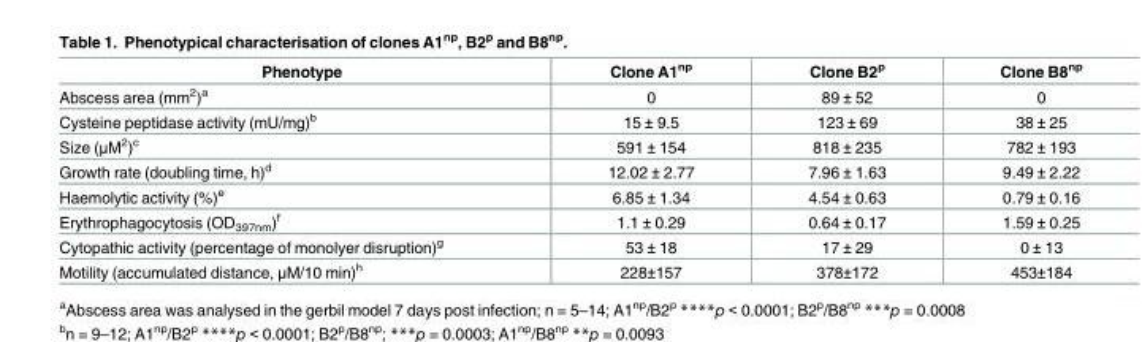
<table><thead><tr><td>Phenotype</td><td>Clone A1<sup>np</sup></td><td>Clone B2<sup>p</sup></td><td>Clone B8<sup>np</sup></td></tr></thead><tbody><tr><td>Abscess area (mm<sup>2</sup>)<sup>a</sup></td><td>0</td><td>89 ± 52</td><td>0</td></tr><tr><td>Cysteine peptidase activity (mU/mg)<sup>b</sup></td><td>15 ± 9.5</td><td>123 ± 69</td><td>38 ± 25</td></tr><tr><td>Size (μM<sup>2</sup>)<sup>c</sup></td><td>591 ± 154</td><td>818 ± 235</td><td>782 ± 193</td></tr><tr><td>Growth rate (doubling time, h)<sup>d</sup></td><td>12.02 ± 2.77</td><td>7.96 ± 1.63</td><td>9.49 ± 2.22</td></tr><tr><td>Haemolytic activity (%)<sup>e</sup></td><td>6.85 ± 1.34</td><td>4.54 ± 0.63</td><td>0.79 ± 0.16</td></tr><tr><td>Erythrophagocytosis (OD<sub>397nm</sub>)<sup>f</sup></td><td>1.1 ± 0.29</td><td>0.64 ± 0.17</td><td>1.59 ± 0.25</td></tr><tr><td>Cytopathic activity (percentage of monolyer disruption)<sup>g</sup></td><td>53 ± 18</td><td>17 ± 29</td><td>0 ± 13</td></tr><tr><td>Motility (accumulated distance, μM/10 min)<sup>h</sup></td><td>228±157</td><td>378±172</td><td>453±184</td></tr></tbody></table>